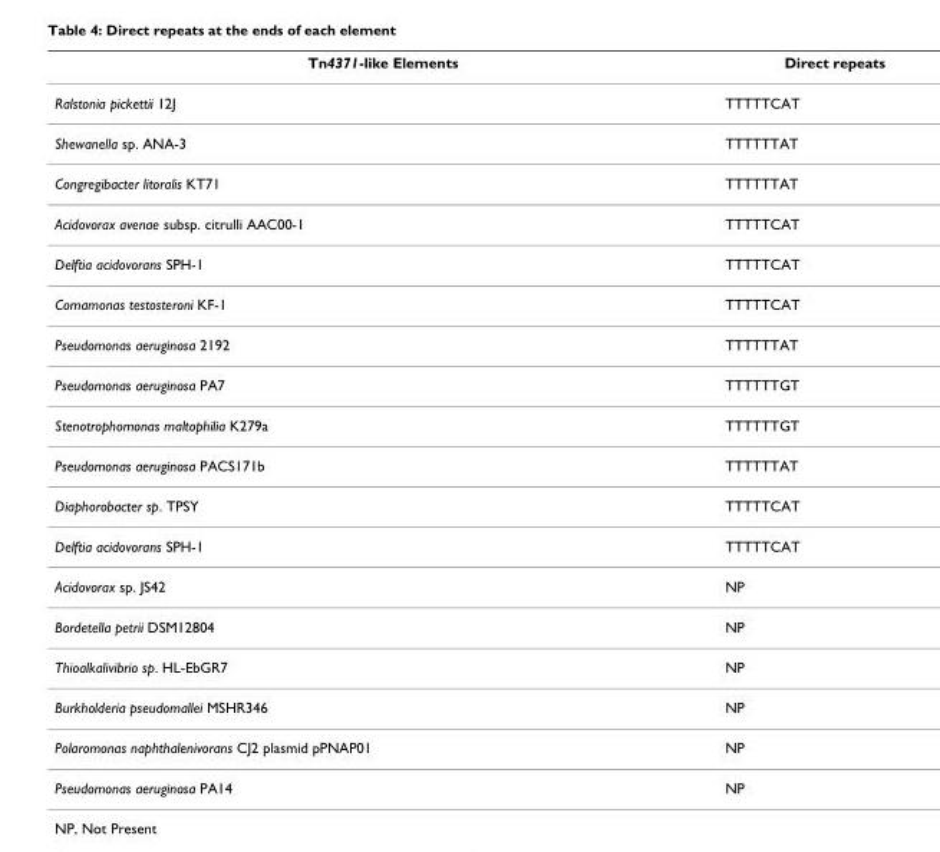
<table><thead><tr><td>Tn4371-like Elements</td><td>Direct repeats</td></tr></thead><tbody><tr><td>Ralstonia pickettii 12J</td><td>TTTTTCAT</td></tr><tr><td>Shewanella sp. ANA-3</td><td>TTTTTTAT</td></tr><tr><td>Congregibacter litoralis KT71</td><td>TTTTTTAT</td></tr><tr><td>Acidovorax avenae subsp. citrulli AAC00-1</td><td>TTTTTCAT</td></tr><tr><td>Delftia acidovorans SPH-1</td><td>TTTTTCAT</td></tr><tr><td>Comamonas testosteroni KF-1</td><td>TTTTTCAT</td></tr><tr><td>Pseudomonas aeruginosa 2192</td><td>TTTTTTAT</td></tr><tr><td>Pseudomonas aeruginosa PA7</td><td>TTTTTTGT</td></tr><tr><td>Stenotrophomonas maltophilia K279a</td><td>TTTTTTGT</td></tr><tr><td>Pseudomonas aeruginosa PACS171b</td><td>TTTTTTAT</td></tr><tr><td>Diaphorobacter sp. TPSY</td><td>TTTTTCAT</td></tr><tr><td>Delftia acidovorans SPH-1</td><td>TTTTTCAT</td></tr><tr><td>Acidovorax sp. JS42</td><td>NP</td></tr><tr><td>Bordetella petrii DSM12804</td><td>NP</td></tr><tr><td>Thioalkalivibrio sp. HL-EbGR7</td><td>NP</td></tr><tr><td>Burkholderia pseudomallei MSHR346</td><td>NP</td></tr><tr><td>Polaromonas naphthalenivorans CJ2 plasmid pPNAP01</td><td>NP</td></tr><tr><td>Pseudomonas aeruginosa PA14</td><td>NP</td></tr></tbody></table>